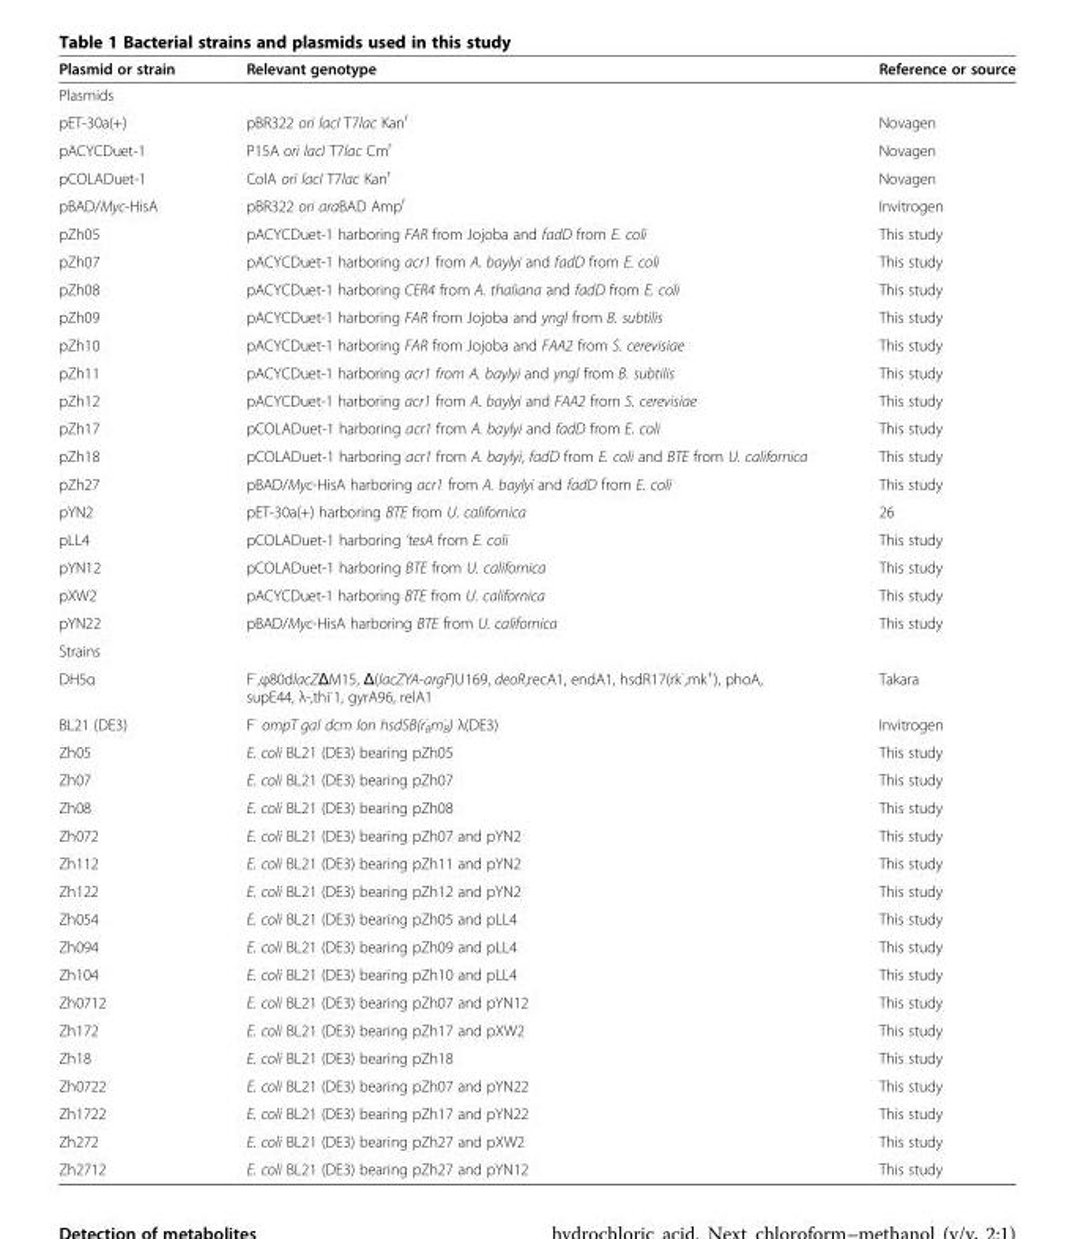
<table><thead><tr><td>Plasmid or strain</td><td>Relevant genotype</td><td>Reference or source</td></tr></thead><tbody><tr><td colspan="3">Plasmids</td></tr><tr><td>pET-30a(+)</td><td>pBR322 ori lacI T7lac Kan<sup>r</sup></td><td>Novagen</td></tr><tr><td>pACYCDuet-1</td><td>P15A ori lacI T7lac Cm<sup>r</sup></td><td>Novagen</td></tr><tr><td>pCOLADuet-1</td><td>ColA ori lacI T7lac Kan<sup>r</sup></td><td>Novagen</td></tr><tr><td>pBAD/Myc-HisA</td><td>pBR322 ori araBAD Amp<sup>r</sup></td><td>Invitrogen</td></tr><tr><td>pZh05</td><td>pACYCDuet-1 harboring FAR from Jojoba and fadD from E. coli</td><td>This study</td></tr><tr><td>pZh07</td><td>pACYCDuet-1 harboring acr1 from A. baylyi and fadD from E. coli</td><td>This study</td></tr><tr><td>pZh08</td><td>pACYCDuet-1 harboring CER4 from A. thaliana and fadD from E. coli</td><td>This study</td></tr><tr><td>pZh09</td><td>pACYCDuet-1 harboring FAR from Jojoba and yngl from B. subtilis</td><td>This study</td></tr><tr><td>pZh10</td><td>pACYCDuet-1 harboring FAR from Jojoba and FAA2 from S. cerevisiae</td><td>This study</td></tr><tr><td>pZh11</td><td>pACYCDuet-1 harboring acr1 from A. baylyi and yngl from B. subtilis</td><td>This study</td></tr><tr><td>pZh12</td><td>pACYCDuet-1 harboring acr1 from A. baylyi and FAA2 from S. cerevisiae</td><td>This study</td></tr><tr><td>pZh17</td><td>pCOLADuet-1 harboring acr1 from A. baylyi and fadD from E. coli</td><td>This study</td></tr><tr><td>pZh18</td><td>pCOLADuet-1 harboring acr1 from A. baylyi, fadD from E. coli and BTE from U. californica</td><td>This study</td></tr><tr><td>pZh27</td><td>pBAD/Myc-HisA harboring acr1 from A. baylyi and fadD from E. coli</td><td>This study</td></tr><tr><td>pYN2</td><td>pET-30a(+) harboring BTE from U. californica</td><td>26</td></tr><tr><td>pLL4</td><td>pCOLADuet-1 harboring ‘tesA from E. coli</td><td>This study</td></tr><tr><td>pYN12</td><td>pCOLADuet-1 harboring BTE from U. californica</td><td>This study</td></tr><tr><td>pXW2</td><td>pACYCDuet-1 harboring BTE from U. californica</td><td>This study</td></tr><tr><td>pYN22</td><td>pBAD/Myc-HisA harboring BTE from U. californica</td><td>This study</td></tr><tr><td colspan="3">Strains</td></tr><tr><td>DH5α</td><td>F<sup>-</sup>,φ80dlacZΔM15, Δ(lacZYA-argF)U169, deoR,recA1, endA1, hsdR17(rk<sup>-</sup>,mk<sup>+</sup>), phoA, supE44, λ-,thi<sup>-</sup>1, gyrA96, relA1</td><td>Takara</td></tr><tr><td>BL21 (DE3)</td><td>F<sup>-</sup> ompT gal dcm lon hsdSB(r<sub>B</sub> <sup>-</sup>m<sub>B</sub> <sup>-</sup>) λ(DE3)</td><td>Invitrogen</td></tr><tr><td>Zh05</td><td>E. coli BL21 (DE3) bearing pZh05</td><td>This study</td></tr><tr><td>Zh07</td><td>E. coli BL21 (DE3) bearing pZh07</td><td>This study</td></tr><tr><td>Zh08</td><td>E. coli BL21 (DE3) bearing pZh08</td><td>This study</td></tr><tr><td>Zh072</td><td>E. coli BL21 (DE3) bearing pZh07 and pYN2</td><td>This study</td></tr><tr><td>Zh112</td><td>E. coli BL21 (DE3) bearing pZh11 and pYN2</td><td>This study</td></tr><tr><td>Zh122</td><td>E. coli BL21 (DE3) bearing pZh12 and pYN2</td><td>This study</td></tr><tr><td>Zh054</td><td>E. coli BL21 (DE3) bearing pZh05 and pLL4</td><td>This study</td></tr><tr><td>Zh094</td><td>E. coli BL21 (DE3) bearing pZh09 and pLL4</td><td>This study</td></tr><tr><td>Zh104</td><td>E. coli BL21 (DE3) bearing pZh10 and pLL4</td><td>This study</td></tr><tr><td>Zh0712</td><td>E. coli BL21 (DE3) bearing pZh07 and pYN12</td><td>This study</td></tr><tr><td>Zh172</td><td>E. coli BL21 (DE3) bearing pZh17 and pXW2</td><td>This study</td></tr><tr><td>Zh18</td><td>E. coli BL21 (DE3) bearing pZh18</td><td>This study</td></tr><tr><td>Zh0722</td><td>E. coli BL21 (DE3) bearing pZh07 and pYN22</td><td>This study</td></tr><tr><td>Zh1722</td><td>E. coli BL21 (DE3) bearing pZh17 and pYN22</td><td>This study</td></tr><tr><td>Zh272</td><td>E. coli BL21 (DE3) bearing pZh27 and pXW2</td><td>This study</td></tr><tr><td>Zh2712</td><td>E. coli BL21 (DE3) bearing pZh27 and pYN12</td><td>This study</td></tr></tbody></table>